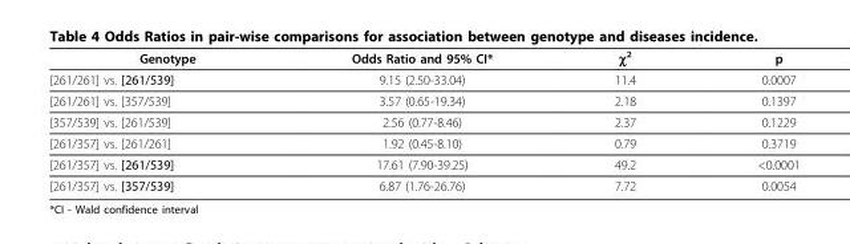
<table><thead><tr><td>Genotype</td><td>Odds Ratio and 95% CI*</td><td>χ<sup>2</sup></td><td>p</td></tr></thead><tbody><tr><td>[261/261] vs. [261/539]</td><td>9.15 (2.50-33.04)</td><td>11.4</td><td>0.0007</td></tr><tr><td>[261/261] vs. [357/539]</td><td>3.57 (0.65-19.34)</td><td>2.18</td><td>0.1397</td></tr><tr><td>[357/539] vs. [261/539]</td><td>2.56 (0.77-8.46)</td><td>2.37</td><td>0.1229</td></tr><tr><td>[261/357] vs. [261/261]</td><td>1.92 (0.45-8.10)</td><td>0.79</td><td>0.3719</td></tr><tr><td>[261/357] vs. [261/539]</td><td>17.61 (7.90-39.25)</td><td>49.2</td><td>&lt;0.0001</td></tr><tr><td>[261/357] vs. [357/539]</td><td>6.87 (1.76-26.76)</td><td>7.72</td><td>0.0054</td></tr></tbody></table>